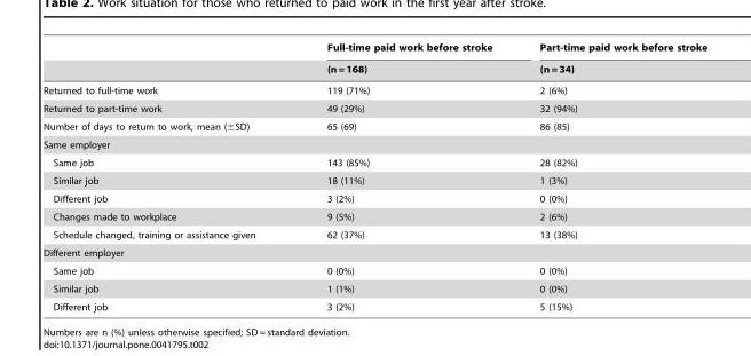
<table><thead><tr><td rowspan="2"></td><td rowspan="2">Full-time paid work before stroke (n = 168)</td><td rowspan="2">Part-time paid work before stroke (n = 34)</td></tr><tr></tr></thead><tbody><tr><td>Returned to full-time work</td><td>119 (71%)</td><td>2 (6%)</td></tr><tr><td>Returned to part-time work</td><td>49 (29%)</td><td>32 (94%)</td></tr><tr><td>Number of days to return to work, mean (±SD)</td><td>65 (69)</td><td>86 (85)</td></tr><tr><td colspan="3">Same employer</td></tr><tr><td>Same job</td><td>143 (85%)</td><td>28 (82%)</td></tr><tr><td>Similar job</td><td>18 (11%)</td><td>1 (3%)</td></tr><tr><td>Different job</td><td>3 (2%)</td><td>0 (0%)</td></tr><tr><td>Changes made to workplace</td><td>9 (5%)</td><td>2 (6%)</td></tr><tr><td>Schedule changed, training or assistance given</td><td>62 (37%)</td><td>13 (38%)</td></tr><tr><td colspan="3">Different employer</td></tr><tr><td>Same job</td><td>0 (0%)</td><td>0 (0%)</td></tr><tr><td>Similar job</td><td>1 (1%)</td><td>0 (0%)</td></tr><tr><td>Different job</td><td>3 (2%)</td><td>5 (15%)</td></tr></tbody></table>